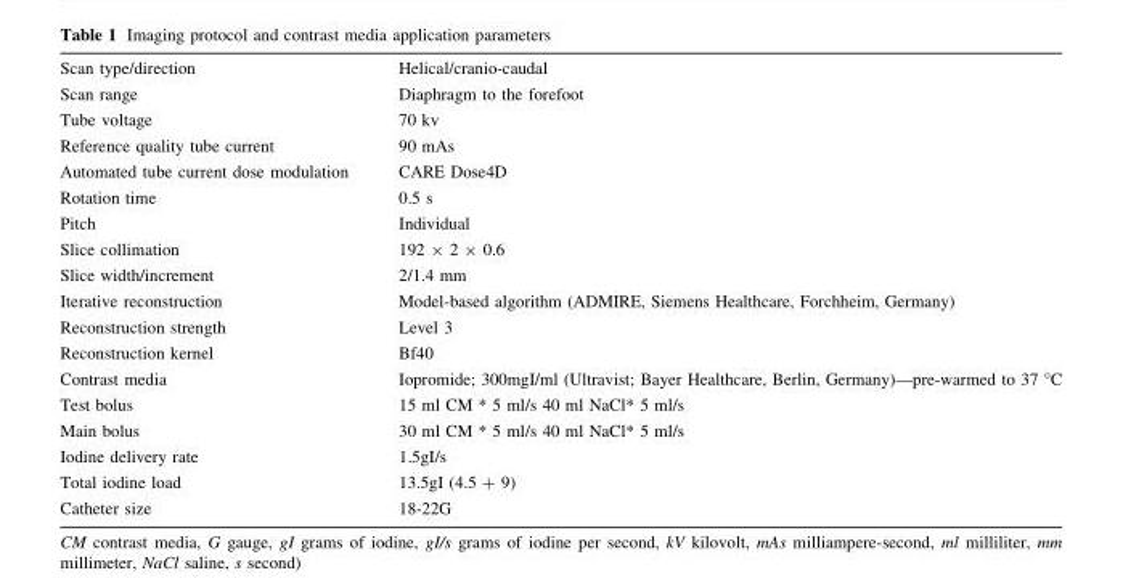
<table><tbody><tr><td>Scan type/direction</td><td>Helical/cranio-caudal</td></tr><tr><td>Scan range</td><td>Diaphragm to the forefoot</td></tr><tr><td>Tube voltage</td><td>70 kv</td></tr><tr><td>Reference quality tube current</td><td>90 mAs</td></tr><tr><td>Automated tube current dose modulation</td><td>CARE Dose4D</td></tr><tr><td>Rotation time</td><td>0.5 s</td></tr><tr><td>Pitch</td><td>Individual</td></tr><tr><td>Slice collimation</td><td>192 × 2 × 0.6</td></tr><tr><td>Slice width/increment</td><td>2/1.4 mm</td></tr><tr><td>Iterative reconstruction</td><td>Model-based algorithm (ADMIRE, Siemens Healthcare, Forchheim, Germany)</td></tr><tr><td>Reconstruction strength</td><td>Level 3</td></tr><tr><td>Reconstruction kernel</td><td>Bf40</td></tr><tr><td>Contrast media</td><td>Iopromide; 300mgI/ml (Ultravist; Bayer Healthcare, Berlin, Germany)—pre-warmed to 37 °C</td></tr><tr><td>Test bolus</td><td>15 ml CM * 5 ml/s 40 ml NaCl* 5 ml/s</td></tr><tr><td>Main bolus</td><td>30 ml CM * 5 ml/s 40 ml NaCl* 5 ml/s</td></tr><tr><td>Iodine delivery rate</td><td>1.5gI/s</td></tr><tr><td>Total iodine load</td><td>13.5gI (4.5 + 9)</td></tr><tr><td>Catheter size</td><td>18-22G</td></tr></tbody></table>